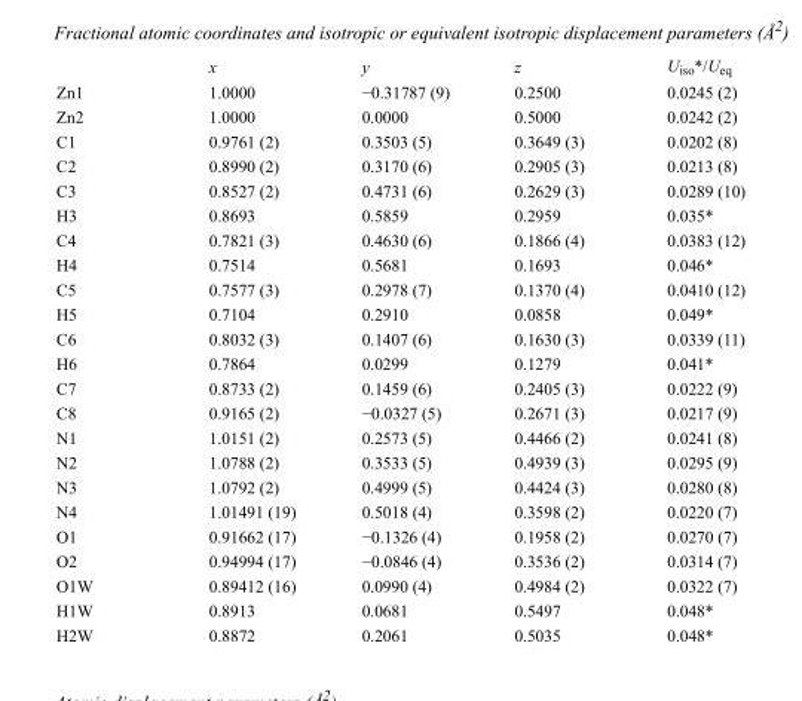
<table><thead><tr><td></td><td>x</td><td>y</td><td>z</td><td>U<sub>iso</sub>*/U<sub>eq</sub></td></tr></thead><tbody><tr><td>Zn1</td><td>1.0000</td><td>−0.31787 (9)</td><td>0.2500</td><td>0.0245 (2)</td></tr><tr><td>Zn2</td><td>1.0000</td><td>0.0000</td><td>0.5000</td><td>0.0242 (2)</td></tr><tr><td>C1</td><td>0.9761 (2)</td><td>0.3503 (5)</td><td>0.3649 (3)</td><td>0.0202 (8)</td></tr><tr><td>C2</td><td>0.8990 (2)</td><td>0.3170 (6)</td><td>0.2905 (3)</td><td>0.0213 (8)</td></tr><tr><td>C3</td><td>0.8527 (2)</td><td>0.4731 (6)</td><td>0.2629 (3)</td><td>0.0289 (10)</td></tr><tr><td>H3</td><td>0.8693</td><td>0.5859</td><td>0.2959</td><td>0.035*</td></tr><tr><td>C4</td><td>0.7821 (3)</td><td>0.4630 (6)</td><td>0.1866 (4)</td><td>0.0383 (12)</td></tr><tr><td>H4</td><td>0.7514</td><td>0.5681</td><td>0.1693</td><td>0.046*</td></tr><tr><td>C5</td><td>0.7577 (3)</td><td>0.2978 (7)</td><td>0.1370 (4)</td><td>0.0410 (12)</td></tr><tr><td>H5</td><td>0.7104</td><td>0.2910</td><td>0.0858</td><td>0.049*</td></tr><tr><td>C6</td><td>0.8032 (3)</td><td>0.1407 (6)</td><td>0.1630 (3)</td><td>0.0339 (11)</td></tr><tr><td>H6</td><td>0.7864</td><td>0.0299</td><td>0.1279</td><td>0.041*</td></tr><tr><td>C7</td><td>0.8733 (2)</td><td>0.1459 (6)</td><td>0.2405 (3)</td><td>0.0222 (9)</td></tr><tr><td>C8</td><td>0.9165 (2)</td><td>−0.0327 (5)</td><td>0.2671 (3)</td><td>0.0217 (9)</td></tr><tr><td>N1</td><td>1.0151 (2)</td><td>0.2573 (5)</td><td>0.4466 (2)</td><td>0.0241 (8)</td></tr><tr><td>N2</td><td>1.0788 (2)</td><td>0.3533 (5)</td><td>0.4939 (3)</td><td>0.0295 (9)</td></tr><tr><td>N3</td><td>1.0792 (2)</td><td>0.4999 (5)</td><td>0.4424 (3)</td><td>0.0280 (8)</td></tr><tr><td>N4</td><td>1.01491 (19)</td><td>0.5018 (4)</td><td>0.3598 (2)</td><td>0.0220 (7)</td></tr><tr><td>O1</td><td>0.91662 (17)</td><td>−0.1326 (4)</td><td>0.1958 (2)</td><td>0.0270 (7)</td></tr><tr><td>O2</td><td>0.94994 (17)</td><td>−0.0846 (4)</td><td>0.3536 (2)</td><td>0.0314 (7)</td></tr><tr><td>O1W</td><td>0.89412 (16)</td><td>0.0990 (4)</td><td>0.4984 (2)</td><td>0.0322 (7)</td></tr><tr><td>H1W</td><td>0.8913</td><td>0.0681</td><td>0.5497</td><td>0.048*</td></tr><tr><td>H2W</td><td>0.8872</td><td>0.2061</td><td>0.5035</td><td>0.048*</td></tr></tbody></table>